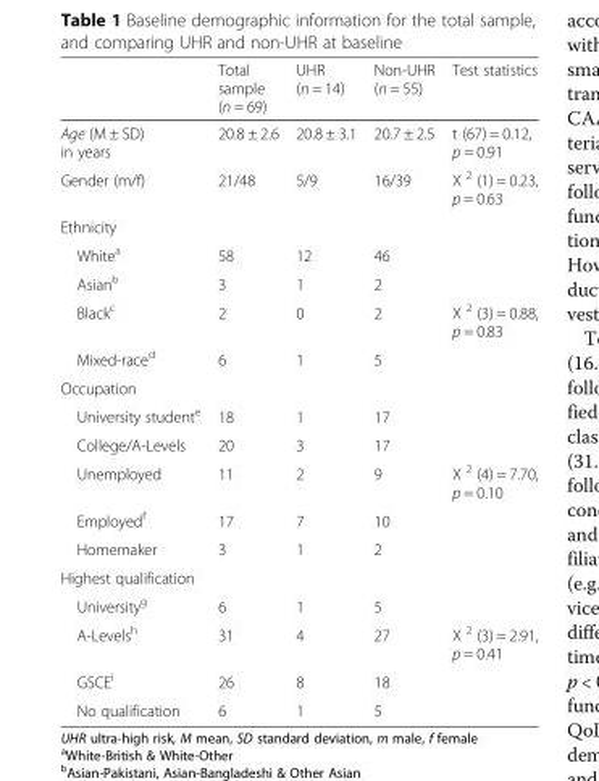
<table><thead><tr><td></td><td>Total sample (n = 69)</td><td>UHR (n = 14)</td><td>Non-UHR (n = 55)</td><td>Test statistics</td></tr></thead><tbody><tr><td>Age (M ± SD) in years</td><td>20.8 ± 2.6</td><td>20.8 ± 3.1</td><td>20.7 ± 2.5</td><td>t (67) = 0.12, p = 0.91</td></tr><tr><td>Gender (m/f)</td><td>21/48</td><td>5/9</td><td>16/39</td><td>X <sup>2</sup> (1) = 0.23, p = 0.63</td></tr><tr><td colspan="5">Ethnicity</td></tr><tr><td>White<sup>a</sup></td><td>58</td><td>12</td><td>46</td><td></td></tr><tr><td>Asian<sup>b</sup></td><td>3</td><td>1</td><td>2</td><td></td></tr><tr><td>Black<sup>c</sup></td><td>2</td><td>0</td><td>2</td><td>X <sup>2</sup> (3) = 0.88, p = 0.83</td></tr><tr><td>Mixed-race<sup>d</sup></td><td>6</td><td>1</td><td>5</td><td></td></tr><tr><td colspan="5">Occupation</td></tr><tr><td>University student<sup>e</sup></td><td>18</td><td>1</td><td>17</td><td></td></tr><tr><td>College/A-Levels</td><td>20</td><td>3</td><td>17</td><td></td></tr><tr><td>Unemployed</td><td>11</td><td>2</td><td>9</td><td>X <sup>2</sup> (4) = 7.70, p = 0.10</td></tr><tr><td>Employed<sup>f</sup></td><td>17</td><td>7</td><td>10</td><td></td></tr><tr><td>Homemaker</td><td>3</td><td>1</td><td>2</td><td></td></tr><tr><td colspan="5">Highest qualification</td></tr><tr><td>University<sup>g</sup></td><td>6</td><td>1</td><td>5</td><td></td></tr><tr><td>A-Levels<sup>h</sup></td><td>31</td><td>4</td><td>27</td><td>X <sup>2</sup> (3) = 2.91, p = 0.41</td></tr><tr><td>GSCE<sup>i</sup></td><td>26</td><td>8</td><td>18</td><td></td></tr><tr><td>No qualification</td><td>6</td><td>1</td><td>5</td><td></td></tr></tbody></table>